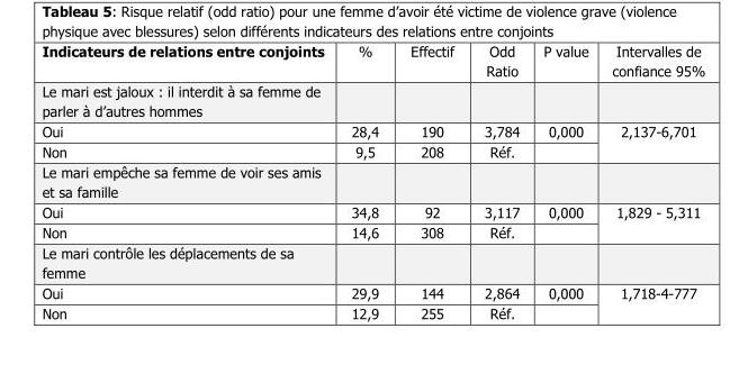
<table><thead><tr><td>Indicateurs de relations entre conjoints</td><td>%</td><td>Effectif</td><td>Odd Ratio</td><td>P value</td><td>Intervalles de confiance 95%</td></tr></thead><tbody><tr><td colspan="6">Le mari est jaloux : il interdit à sa femme de parler à d’autres hommes</td></tr><tr><td>Oui</td><td>28,4</td><td>190</td><td>3,784</td><td>0,000</td><td rowspan="2">2,137-6,701</td></tr><tr><td>Non</td><td>9,5</td><td>208</td><td>Réf.</td><td></td></tr><tr><td colspan="6">Le mari empêche sa femme de voir ses amis et sa famille</td></tr><tr><td>Oui</td><td>34,8</td><td>92</td><td>3,117</td><td>0,000</td><td rowspan="2">1,829 - 5,311</td></tr><tr><td>Non</td><td>14,6</td><td>308</td><td>Réf.</td><td></td></tr><tr><td colspan="6">Le mari contrôle les déplacements de sa femme</td></tr><tr><td>Oui</td><td>29,9</td><td>144</td><td>2,864</td><td>0,000</td><td rowspan="2">1,718-4-777</td></tr><tr><td>Non</td><td>12,9</td><td>255</td><td>Réf.</td><td></td></tr></tbody></table>